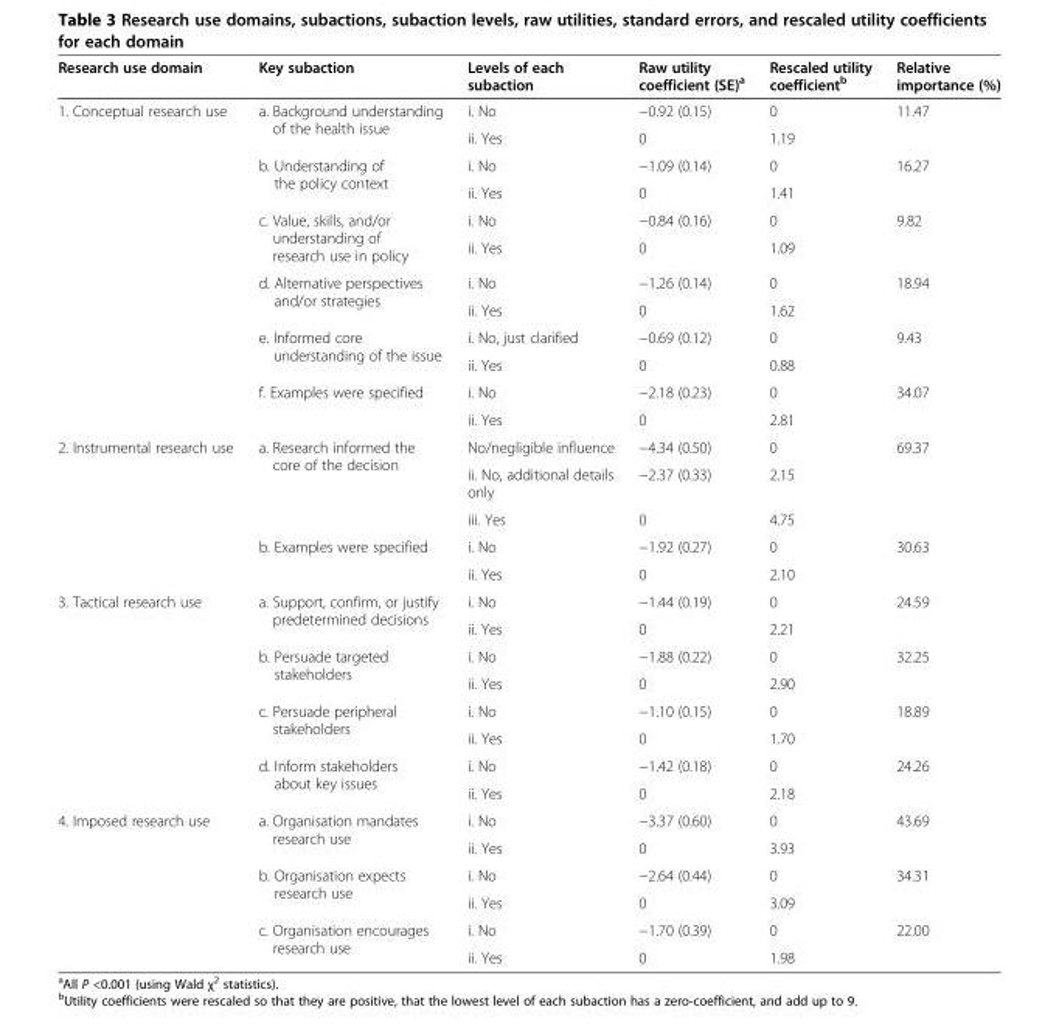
<table><thead><tr><td>Research use domain</td><td>Key subaction</td><td>Levels of each subaction</td><td>Raw utility coefficient (SE)<sup>a</sup></td><td>Rescaled utility coefficient<sup>b</sup></td><td>Relative importance (%)</td></tr></thead><tbody><tr><td rowspan="12">1. Conceptual research use</td><td rowspan="2">a. Background understanding of the health issue</td><td>i. No</td><td>−0.92 (0.15)</td><td>0</td><td rowspan="2">11.47</td></tr><tr><td>ii. Yes</td><td>0</td><td>1.19</td></tr><tr><td rowspan="2">b. Understanding of the policy context</td><td>i. No</td><td>−1.09 (0.14)</td><td>0</td><td rowspan="2">16.27</td></tr><tr><td>ii. Yes</td><td>0</td><td>1.41</td></tr><tr><td rowspan="2">c. Value, skills, and/or understanding of research use in policy</td><td>i. No</td><td>−0.84 (0.16)</td><td>0</td><td rowspan="2">9.82</td></tr><tr><td>ii. Yes</td><td>0</td><td>1.09</td></tr><tr><td rowspan="2">d. Alternative perspectives and/or strategies</td><td>i. No</td><td>−1.26 (0.14)</td><td>0</td><td rowspan="2">18.94</td></tr><tr><td>ii. Yes</td><td>0</td><td>1.62</td></tr><tr><td rowspan="2">e. Informed core understanding of the issue</td><td>i. No, just clarified</td><td>−0.69 (0.12)</td><td>0</td><td rowspan="2">9.43</td></tr><tr><td>ii. Yes</td><td>0</td><td>0.88</td></tr><tr><td rowspan="2">f. Examples were specified</td><td>i. No</td><td>−2.18 (0.23)</td><td>0</td><td rowspan="2">34.07</td></tr><tr><td>ii. Yes</td><td>0</td><td>2.81</td></tr><tr><td rowspan="5">2. Instrumental research use</td><td rowspan="3">a. Research informed the core of the decision</td><td>No/negligible influence</td><td>−4.34 (0.50)</td><td>0</td><td rowspan="3">69.37</td></tr><tr><td>ii. No, additional details only</td><td>−2.37 (0.33)</td><td>2.15</td></tr><tr><td>iii. Yes</td><td>0</td><td>4.75</td></tr><tr><td rowspan="2">b. Examples were specified</td><td>i. No</td><td>−1.92 (0.27)</td><td>0</td><td rowspan="2">30.63</td></tr><tr><td>ii. Yes</td><td>0</td><td>2.10</td></tr><tr><td rowspan="8">3. Tactical research use</td><td rowspan="2">a. Support, confirm, or justify predetermined decisions</td><td>i. No</td><td>−1.44 (0.19)</td><td>0</td><td rowspan="2">24.59</td></tr><tr><td>ii. Yes</td><td>0</td><td>2.21</td></tr><tr><td rowspan="2">b. Persuade targeted stakeholders</td><td>i. No</td><td>−1.88 (0.22)</td><td>0</td><td rowspan="2">32.25</td></tr><tr><td>ii. Yes</td><td>0</td><td>2.90</td></tr><tr><td rowspan="2">c. Persuade peripheral stakeholders</td><td>i. No</td><td>−1.10 (0.15)</td><td>0</td><td rowspan="2">18.89</td></tr><tr><td>ii. Yes</td><td>0</td><td>1.70</td></tr><tr><td rowspan="2">d. Inform stakeholders about key issues</td><td>i. No</td><td>−1.42 (0.18)</td><td>0</td><td rowspan="2">24.26</td></tr><tr><td>ii. Yes</td><td>0</td><td>2.18</td></tr><tr><td rowspan="6">4. Imposed research use</td><td rowspan="2">a. Organisation mandates research use</td><td>i. No</td><td>−3.37 (0.60)</td><td>0</td><td rowspan="2">43.69</td></tr><tr><td>ii. Yes</td><td>0</td><td>3.93</td></tr><tr><td rowspan="2">b. Organisation expects research use</td><td>i. No</td><td>−2.64 (0.44)</td><td>0</td><td rowspan="2">34.31</td></tr><tr><td>ii. Yes</td><td>0</td><td>3.09</td></tr><tr><td rowspan="2">c. Organisation encourages research use</td><td>i. No</td><td>−1.70 (0.39)</td><td>0</td><td rowspan="2">22.00</td></tr><tr><td>ii. Yes</td><td>0</td><td>1.98</td></tr></tbody></table>